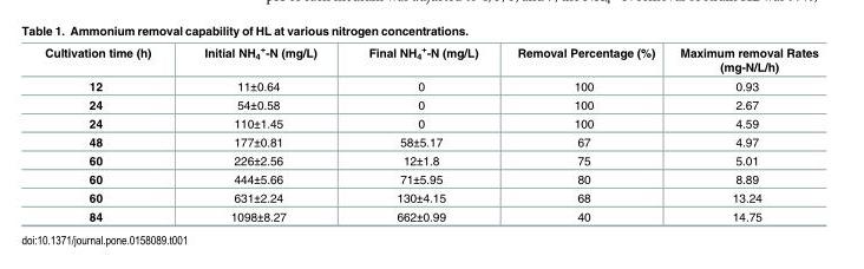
<table><thead><tr><td>Cultivation time (h)</td><td>Initial NH<sub>4</sub> <sup>+</sup>-N (mg/L)</td><td>Final NH<sub>4</sub> <sup>+</sup>-N (mg/L)</td><td>Removal Percentage (%)</td><td>Maximum removal Rates (mg-N/L/h)</td></tr></thead><tbody><tr><td>12</td><td>11±0.64</td><td>0</td><td>100</td><td>0.93</td></tr><tr><td>24</td><td>54±0.58</td><td>0</td><td>100</td><td>2.67</td></tr><tr><td>24</td><td>110±1.45</td><td>0</td><td>100</td><td>4.59</td></tr><tr><td>48</td><td>177±0.81</td><td>58±5.17</td><td>67</td><td>4.97</td></tr><tr><td>60</td><td>226±2.56</td><td>12±1.8</td><td>75</td><td>5.01</td></tr><tr><td>60</td><td>444±5.66</td><td>71±5.95</td><td>80</td><td>8.89</td></tr><tr><td>60</td><td>631±2.24</td><td>130±4.15</td><td>68</td><td>13.24</td></tr><tr><td>84</td><td>1098±8.27</td><td>662±0.99</td><td>40</td><td>14.75</td></tr></tbody></table>